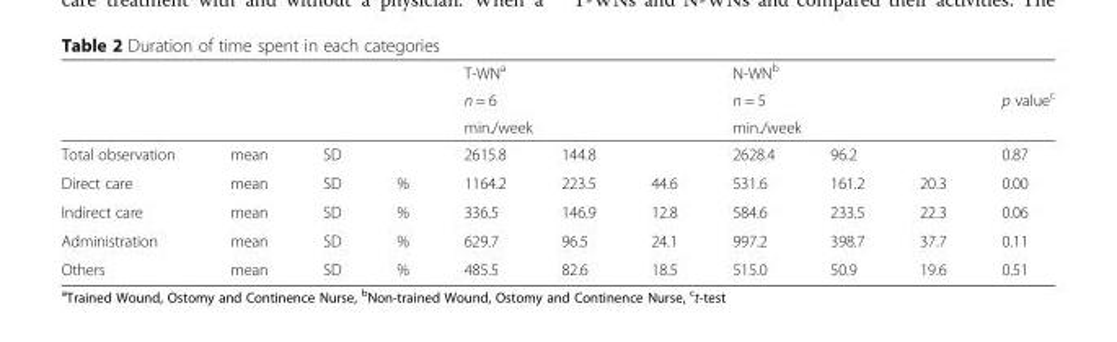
<table><thead><tr><td rowspan="4">Total observation</td><td rowspan="4">mean</td><td rowspan="4">SD</td><td rowspan="4"></td><td rowspan="3" colspan="3">T-WN<sup>a</sup> n = 6 min./week</td><td rowspan="3" colspan="3">N-WN<sup>b</sup> n = 5 min./week</td><td rowspan="4">p value<sup>c</sup> 0.87</td></tr><tr></tr><tr></tr><tr><td>2615.8</td><td>144.8</td><td></td><td>2628.4</td><td>96.2</td><td></td></tr></thead><tbody><tr><td>Direct care</td><td>mean</td><td>SD</td><td>%</td><td>1164.2</td><td>223.5</td><td>44.6</td><td>531.6</td><td>161.2</td><td>20.3</td><td>0.00</td></tr><tr><td>Indirect care</td><td>mean</td><td>SD</td><td>%</td><td>336.5</td><td>146.9</td><td>12.8</td><td>584.6</td><td>233.5</td><td>22.3</td><td>0.06</td></tr><tr><td>Administration</td><td>mean</td><td>SD</td><td>%</td><td>629.7</td><td>96.5</td><td>24.1</td><td>997.2</td><td>398.7</td><td>37.7</td><td>0.11</td></tr><tr><td>Others</td><td>mean</td><td>SD</td><td>%</td><td>485.5</td><td>82.6</td><td>18.5</td><td>515.0</td><td>50.9</td><td>19.6</td><td>0.51</td></tr></tbody></table>